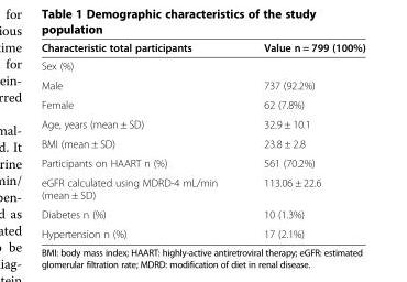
<table><thead><tr><td>Characteristic total participants</td><td>Value n = 799 (100%)</td></tr></thead><tbody><tr><td colspan="2">Sex (%)</td></tr><tr><td>Male</td><td>737 (92.2%)</td></tr><tr><td>Female</td><td>62 (7.8%)</td></tr><tr><td>Age, years (mean ± SD)</td><td>32.9 ± 10.1</td></tr><tr><td>BMI (mean ± SD)</td><td>23.8 ± 2.8</td></tr><tr><td>Participants on HAART n (%)</td><td>561 (70.2%)</td></tr><tr><td>eGFR calculated using MDRD-4 mL/min (mean ± SD)</td><td>113.06 ± 22.6</td></tr><tr><td>Diabetes n (%)</td><td>10 (1.3%)</td></tr><tr><td>Hypertension n (%)</td><td>17 (2.1%)</td></tr></tbody></table>